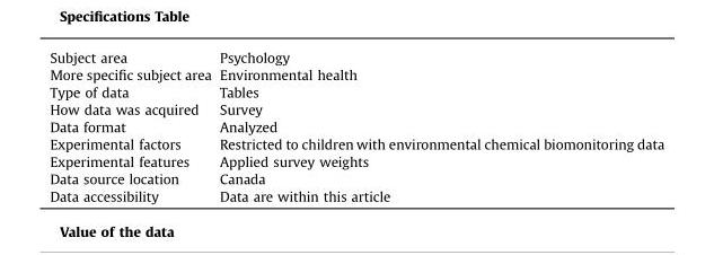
<table><tbody><tr><td>Subject area</td><td>Psychology</td></tr><tr><td>More specific subject area</td><td>Environmental health</td></tr><tr><td>Type of data</td><td>Tables</td></tr><tr><td>How data was acquired</td><td>Survey</td></tr><tr><td>Data format</td><td>Analyzed</td></tr><tr><td>Experimental factors</td><td>Restricted to children with environmental chemical biomonitoring data</td></tr><tr><td>Experimental features</td><td>Applied survey weights</td></tr><tr><td>Data source location</td><td>Canada</td></tr><tr><td>Data accessibility</td><td>Data are within this article</td></tr></tbody></table>